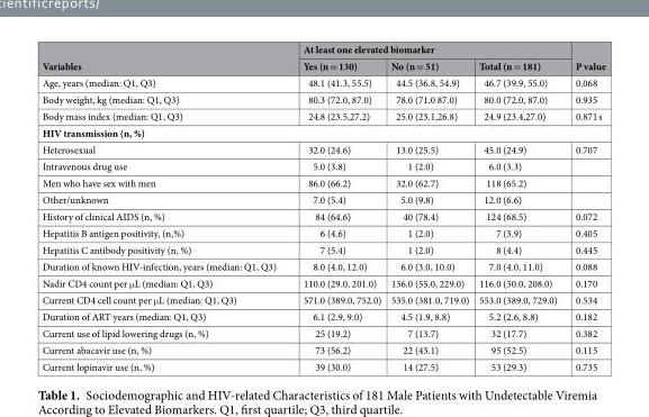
<table><thead><tr><td rowspan="2">Variables</td><td colspan="3">At least one elevated biomarker</td><td rowspan="2">P value</td></tr><tr><td>Yes (n = 130)</td><td>No (n = 51)</td><td>Total (n = 181)</td></tr></thead><tbody><tr><td>Age, years (median: Q1, Q3)</td><td>48.1 (41.3, 55.5)</td><td>44.5 (36.8, 54.9)</td><td>46.7 (39.9, 55.0)</td><td>0.068</td></tr><tr><td>Body weight, kg (median: Q1, Q3)</td><td>80.3 (72.0, 87.0)</td><td>78.0 (71.0 87.0)</td><td>80.0 (72.0, 87.0)</td><td>0.935</td></tr><tr><td>Body mass index (median: Q1, Q3)</td><td>24.8 (23.5,27.2)</td><td>25.0 (23.1,26.8)</td><td>24.9 (23.4,27.0)</td><td>0.871 s</td></tr><tr><td colspan="5">HIV transmission (n, %)</td></tr><tr><td>Heterosexual</td><td>32.0 (24.6)</td><td>13.0 (25.5)</td><td>45.0 (24.9)</td><td>0.707</td></tr><tr><td>Intravenous drug use</td><td>5.0 (3.8)</td><td>1 (2.0)</td><td>6.0 (3.3)</td><td></td></tr><tr><td>Men who have sex with men</td><td>86.0 (66.2)</td><td>32.0 (62.7)</td><td>118 (65.2)</td><td></td></tr><tr><td>Other/unknown</td><td>7.0 (5.4)</td><td>5.0 (9.8)</td><td>12.0 (6.6)</td><td></td></tr><tr><td>History of clinical AIDS (n, %)</td><td>84 (64.6)</td><td>40 (78.4)</td><td>124 (68.5)</td><td>0.072</td></tr><tr><td>Hepatitis B antigen positivity, (n,%)</td><td>6 (4.6)</td><td>1 (2.0)</td><td>7 (3.9)</td><td>0.405</td></tr><tr><td>Hepatitis C antibody positivity (n, %)</td><td>7 (5.4)</td><td>1 (2.0)</td><td>8 (4.4)</td><td>0.445</td></tr><tr><td>Duration of known HIV-infection, years (median: Q1, Q3)</td><td>8.0 (4.0, 12.0)</td><td>6.0 (3.0, 10.0)</td><td>7.0 (4.0, 11.0)</td><td>0.088</td></tr><tr><td>Nadir CD4 count per μL (median: Q1, Q3)</td><td>110.0 (29.0, 201.0)</td><td>136.0 (55.0, 229.0)</td><td>116.0 (30.0, 208.0)</td><td>0.170</td></tr><tr><td>Current CD4 cell count per μL (median: Q1, Q3)</td><td>571.0 (389.0, 752.0)</td><td>535.0 (381.0, 719.0)</td><td>553.0 (389.0, 729.0)</td><td>0.534</td></tr><tr><td>Duration of ART years (median: Q1, Q3)</td><td>6.1 (2.9, 9.0)</td><td>4.5 (1.9, 8.8)</td><td>5.2 (2.6, 8.8)</td><td>0.182</td></tr><tr><td>Current use of lipid lowering drugs (n, %)</td><td>25 (19.2)</td><td>7 (13.7)</td><td>32 (17.7)</td><td>0.382</td></tr><tr><td>Current abacavir use (n, %)</td><td>73 (56.2)</td><td>22 (43.1)</td><td>95 (52.5)</td><td>0.115</td></tr><tr><td>Current lopinavir use (n, %)</td><td>39 (30.0)</td><td>14 (27.5)</td><td>53 (29.3)</td><td>0.735</td></tr></tbody></table>